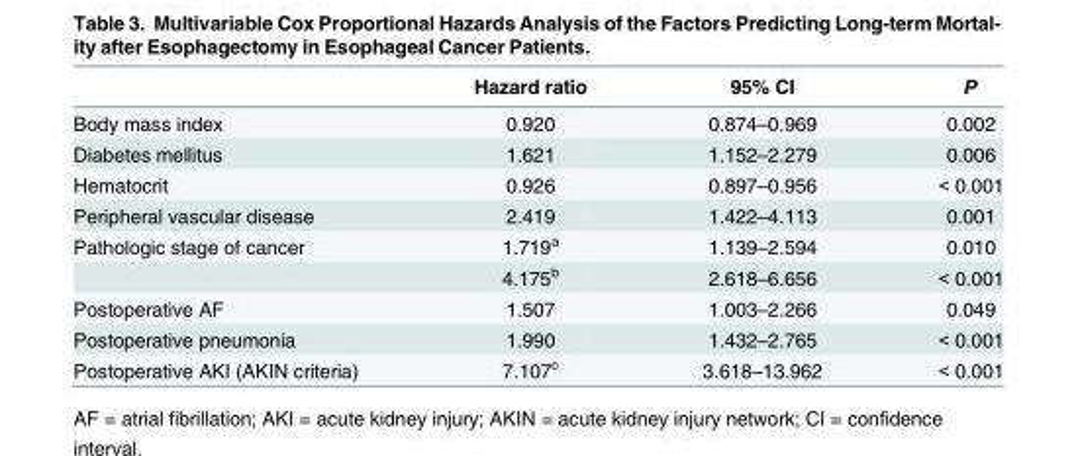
<table><thead><tr><td></td><td>Hazard ratio</td><td>95% CI</td><td>P</td></tr></thead><tbody><tr><td>Body mass index</td><td>0.920</td><td>0.874–0.969</td><td>0.002</td></tr><tr><td>Diabetes mellitus</td><td>1.621</td><td>1.152–2.279</td><td>0.006</td></tr><tr><td>Hematocrit</td><td>0.926</td><td>0.897–0.956</td><td>&lt; 0.001</td></tr><tr><td>Peripheral vascular disease</td><td>2.419</td><td>1.422–4.113</td><td>0.001</td></tr><tr><td rowspan="2">Pathologic stage of cancer</td><td>1.719<sup>a</sup></td><td>1.139–2.594</td><td>0.010</td></tr><tr><td>4.175<sup>b</sup></td><td>2.618–6.656</td><td>&lt; 0.001</td></tr><tr><td>Postoperative AF</td><td>1.507</td><td>1.003–2.266</td><td>0.049</td></tr><tr><td>Postoperative pneumonia</td><td>1.990</td><td>1.432–2.765</td><td>&lt; 0.001</td></tr><tr><td>Postoperative AKI (AKIN criteria)</td><td>7.107<sup>c</sup></td><td>3.618–13.962</td><td>&lt; 0.001</td></tr></tbody></table>